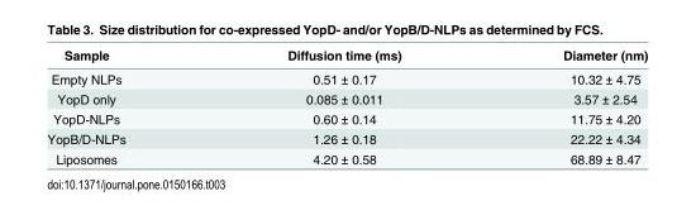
<table><thead><tr><td>Sample</td><td>Diffusion time (ms)</td><td>Diameter (nm)</td></tr></thead><tbody><tr><td>Empty NLPs</td><td>0.51 ± 0.17</td><td>10.32 ± 4.75</td></tr><tr><td>YopD only</td><td>0.085 ± 0.011</td><td>3.57 ± 2.54</td></tr><tr><td>YopD-NLPs</td><td>0.60 ± 0.14</td><td>11.75 ± 4.20</td></tr><tr><td>YopB/D-NLPs</td><td>1.26 ± 0.18</td><td>22.22 ± 4.34</td></tr><tr><td>Liposomes</td><td>4.20 ± 0.58</td><td>68.89 ± 8.47</td></tr></tbody></table>